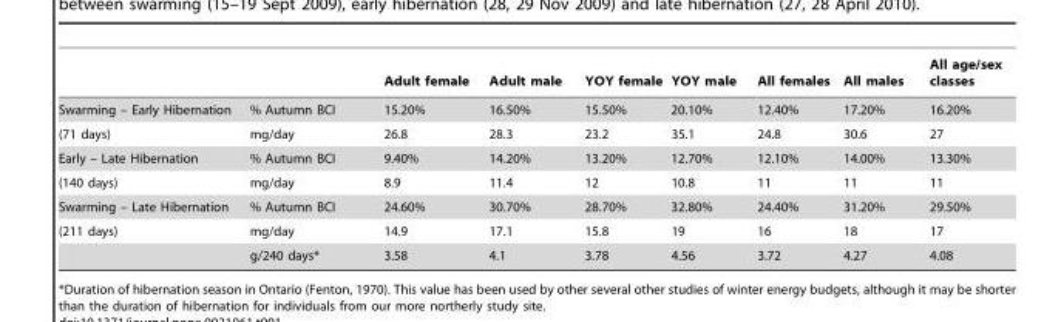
<table><thead><tr><td></td><td></td><td>Adult female</td><td>Adult male</td><td>YOY female</td><td>YOY male</td><td>All females</td><td>All males</td><td>All age/sex classes</td></tr></thead><tbody><tr><td>Swarming – Early Hibernation</td><td>% Autumn BCI</td><td>15.20%</td><td>16.50%</td><td>15.50%</td><td>20.10%</td><td>12.40%</td><td>17.20%</td><td>16.20%</td></tr><tr><td>(71 days)</td><td>mg/day</td><td>26.8</td><td>28.3</td><td>23.2</td><td>35.1</td><td>24.8</td><td>30.6</td><td>27</td></tr><tr><td>Early – Late Hibernation</td><td>% Autumn BCI</td><td>9.40%</td><td>14.20%</td><td>13.20%</td><td>12.70%</td><td>12.10%</td><td>14.00%</td><td>13.30%</td></tr><tr><td>(140 days)</td><td>mg/day</td><td>8.9</td><td>11.4</td><td>12</td><td>10.8</td><td>11</td><td>11</td><td>11</td></tr><tr><td>Swarming – Late Hibernation</td><td>% Autumn BCI</td><td>24.60%</td><td>30.70%</td><td>28.70%</td><td>32.80%</td><td>24.40%</td><td>31.20%</td><td>29.50%</td></tr><tr><td rowspan="2">(211 days)</td><td>mg/day</td><td>14.9</td><td>17.1</td><td>15.8</td><td>19</td><td>16</td><td>18</td><td>17</td></tr><tr><td>g/240 days*</td><td>3.58</td><td>4.1</td><td>3.78</td><td>4.56</td><td>3.72</td><td>4.27</td><td>4.08</td></tr></tbody></table>